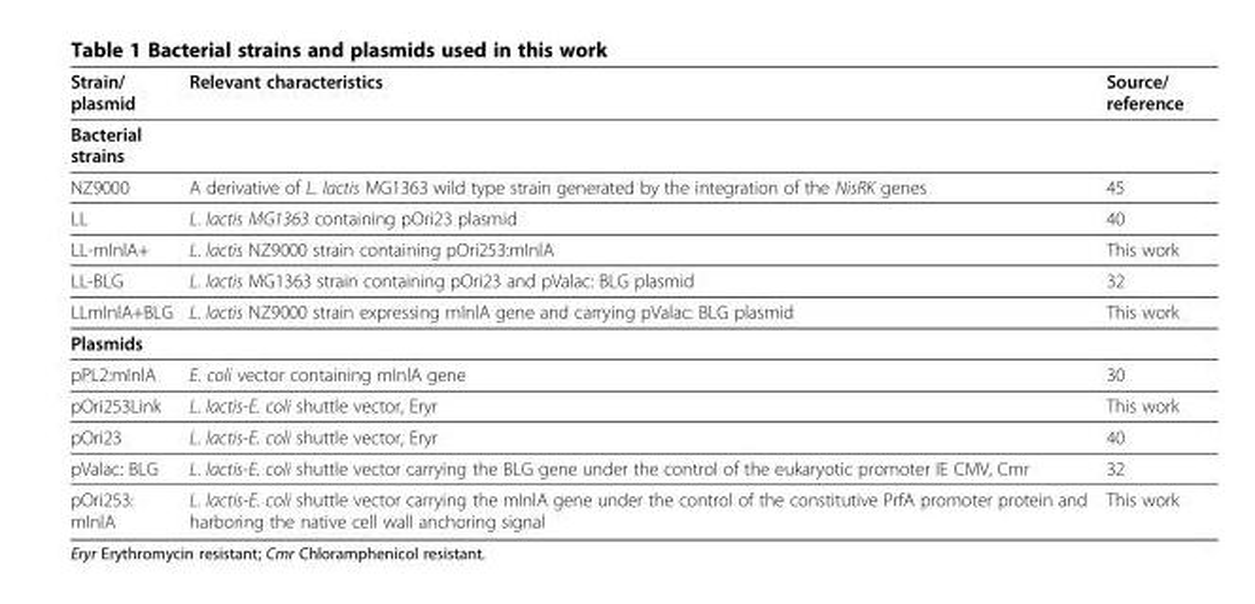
<table><thead><tr><td>Strain/ plasmid</td><td>Relevant characteristics</td><td>Source/ reference</td></tr></thead><tbody><tr><td colspan="3">Bacterial strains</td></tr><tr><td>NZ9000</td><td>A derivative of L. lactis MG1363 wild type strain generated by the integration of the NisRK genes</td><td>45</td></tr><tr><td>LL</td><td>L. lactis MG1363 containing pOri23 plasmid</td><td>40</td></tr><tr><td>LL-mInlA+</td><td>L. lactis NZ9000 strain containing pOri253:mInlA</td><td>This work</td></tr><tr><td>LL-BLG</td><td>L. lactis MG1363 strain containing pOri23 and pValac: BLG plasmid</td><td>32</td></tr><tr><td>LLmInlA+BLG</td><td>L. lactis NZ9000 strain expressing mInlA gene and carrying pValac: BLG plasmid</td><td>This work</td></tr><tr><td colspan="3">Plasmids</td></tr><tr><td>pPL2:mInlA</td><td>E. coli vector containing mInlA gene</td><td>30</td></tr><tr><td>pOri253Link</td><td>L. lactis-E. coli shuttle vector, Eryr</td><td>This work</td></tr><tr><td>pOri23</td><td>L. lactis-E. coli shuttle vector, Eryr</td><td>40</td></tr><tr><td>pValac: BLG</td><td>L. lactis-E. coli shuttle vector carrying the BLG gene under the control of the eukaryotic promoter IE CMV, Cmr</td><td>32</td></tr><tr><td>pOri253: mInlA</td><td>L. lactis-E. coli shuttle vector carrying the mInlA gene under the control of the constitutive PrfA promoter protein and harboring the native cell wall anchoring signal</td><td>This work</td></tr></tbody></table>